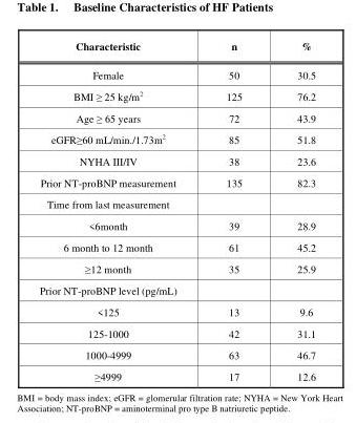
<table><tbody><tr><td>Characteristic</td><td>n</td><td>%</td></tr><tr><td>Female</td><td>50</td><td>30.5</td></tr><tr><td>BMI ≥ 25 kg/m<sup>2</sup></td><td>125</td><td>76.2</td></tr><tr><td>Age ≥ 65 years</td><td>72</td><td>43.9</td></tr><tr><td>eGFR≥60 mL/min./1.73m<sup>2</sup></td><td>85</td><td>51.8</td></tr><tr><td>NYHA III/IV</td><td>38</td><td>23.6</td></tr><tr><td>Prior NT-proBNP measurement</td><td>135</td><td>82.3</td></tr><tr><td colspan="3">Time from last measurement</td></tr><tr><td>&lt;6month</td><td>39</td><td>28.9</td></tr><tr><td>6 month to 12 month</td><td>61</td><td>45.2</td></tr><tr><td>≥12 month</td><td>35</td><td>25.9</td></tr><tr><td colspan="3">Prior NT-proBNP level (pg/mL)</td></tr><tr><td>&lt;125</td><td>13</td><td>9.6</td></tr><tr><td>125-1000</td><td>42</td><td>31.1</td></tr><tr><td>1000-4999</td><td>63</td><td>46.7</td></tr><tr><td>≥4999</td><td>17</td><td>12.6</td></tr></tbody></table>